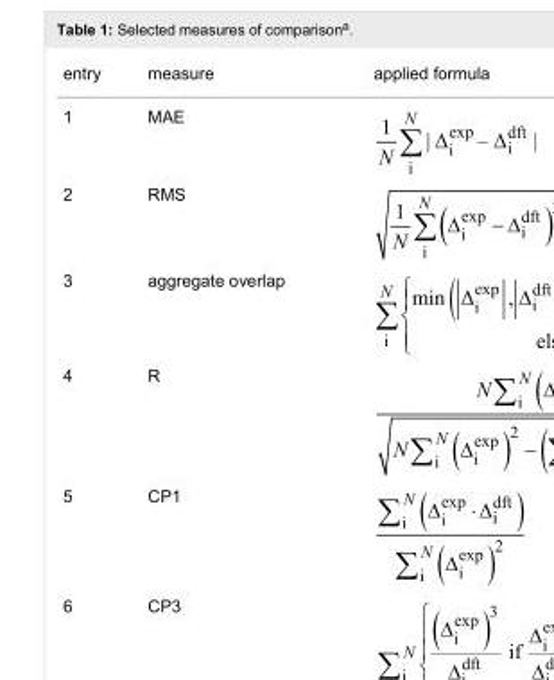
<table><tbody><tr><td>entry</td><td>measure</td><td>applied formula</td></tr><tr><td>1</td><td>MAE</td><td></td></tr><tr><td>2</td><td>RMS</td><td></td></tr><tr><td>3</td><td>aggregate overlap</td><td></td></tr><tr><td>4</td><td>R</td><td></td></tr><tr><td>5</td><td>CP1</td><td></td></tr><tr><td>6</td><td>CP3</td><td></td></tr></tbody></table>